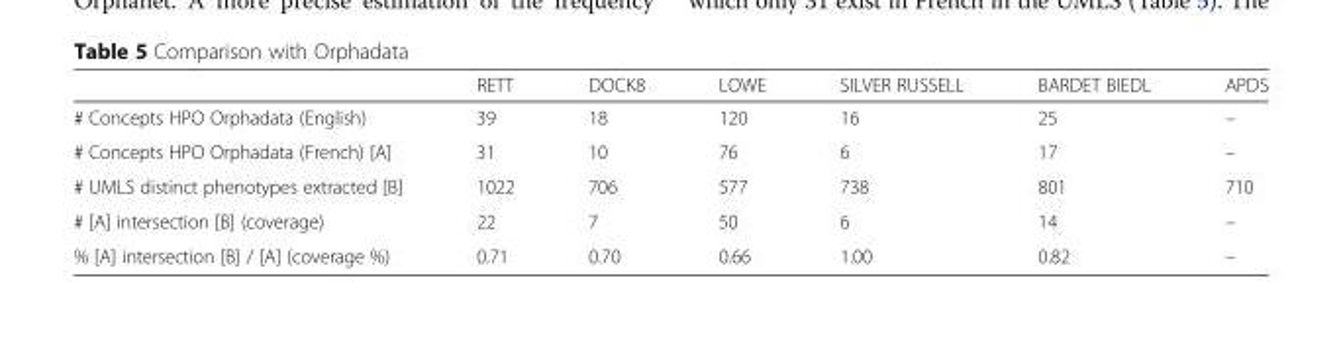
<table><thead><tr><td></td><td>RETT</td><td>DOCK8</td><td>LOWE</td><td>SILVER RUSSELL</td><td>BARDET BIEDL</td><td>APDS</td></tr></thead><tbody><tr><td># Concepts HPO Orphadata (English)</td><td>39</td><td>18</td><td>120</td><td>16</td><td>25</td><td>–</td></tr><tr><td># Concepts HPO Orphadata (French) [A]</td><td>31</td><td>10</td><td>76</td><td>6</td><td>17</td><td>–</td></tr><tr><td># UMLS distinct phenotypes extracted [B]</td><td>1022</td><td>706</td><td>577</td><td>738</td><td>801</td><td>710</td></tr><tr><td># [A] intersection [B] (coverage)</td><td>22</td><td>7</td><td>50</td><td>6</td><td>14</td><td>–</td></tr><tr><td>% [A] intersection [B] / [A] (coverage %)</td><td>0.71</td><td>0.70</td><td>0.66</td><td>1.00</td><td>0.82</td><td>–</td></tr></tbody></table>